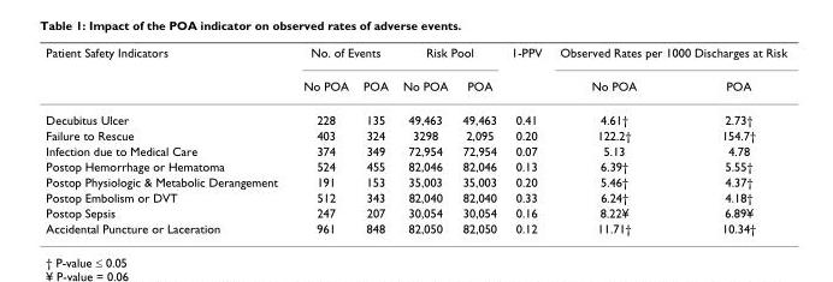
<table><thead><tr><td rowspan="2">Patient Safety Indicators</td><td colspan="2">No. of Events</td><td colspan="2">Risk Pool</td><td rowspan="2">1-PPV</td><td colspan="2">Observed Rates per 1000 Discharges at Risk</td></tr><tr><td>No POA</td><td>POA</td><td>No POA</td><td>POA</td><td>No POA</td><td>POA</td></tr></thead><tbody><tr><td>Decubitus Ulcer</td><td>228</td><td>135</td><td>49,463</td><td>49,463</td><td>0.41</td><td>4.61†</td><td>2.73†</td></tr><tr><td>Failure to Rescue</td><td>403</td><td>324</td><td>3298</td><td>2,095</td><td>0.20</td><td>122.2†</td><td>154.7†</td></tr><tr><td>Infection due to Medical Care</td><td>374</td><td>349</td><td>72,954</td><td>72,954</td><td>0.07</td><td>5.13</td><td>4.78</td></tr><tr><td>Postop Hemorrhage or Hematoma</td><td>524</td><td>455</td><td>82,046</td><td>82,046</td><td>0.13</td><td>6.39†</td><td>5.55†</td></tr><tr><td>Postop Physiologic &amp; Metabolic Derangement</td><td>191</td><td>153</td><td>35,003</td><td>35,003</td><td>0.20</td><td>5.46†</td><td>4.37†</td></tr><tr><td>Postop Embolism or DVT</td><td>512</td><td>343</td><td>82,040</td><td>82,040</td><td>0.33</td><td>6.24†</td><td>4.18†</td></tr><tr><td>Postop Sepsis</td><td>247</td><td>207</td><td>30,054</td><td>30,054</td><td>0.16</td><td>8.22¥</td><td>6.89¥</td></tr><tr><td>Accidental Puncture or Laceration</td><td>961</td><td>848</td><td>82,050</td><td>82,050</td><td>0.12</td><td>11.71†</td><td>10.34†</td></tr></tbody></table>